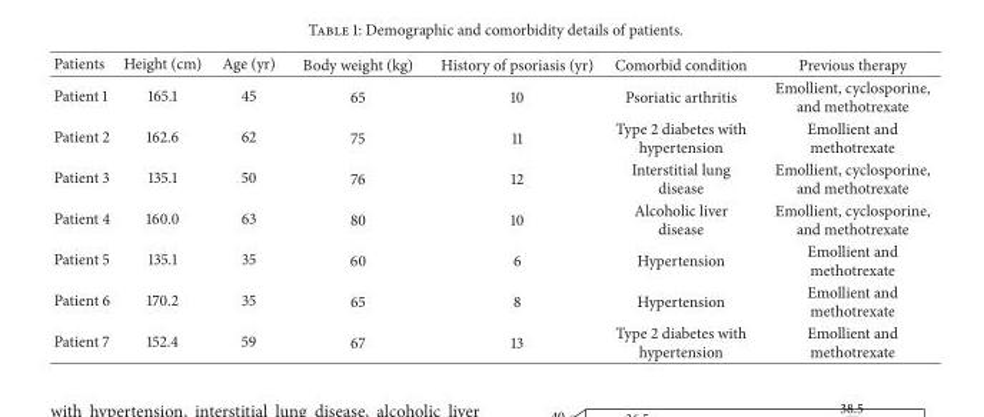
<table><thead><tr><td>Patients</td><td>Height (cm)</td><td>Age (yr)</td><td>Body weight (kg)</td><td>History of psoriasis (yr)</td><td>Comorbid condition</td><td>Previous therapy</td></tr></thead><tbody><tr><td>Patient 1</td><td>165.1</td><td>45</td><td>65</td><td>10</td><td>Psoriatic arthritis</td><td>Emollient, cyclosporine, and methotrexate</td></tr><tr><td>Patient 2</td><td>162.6</td><td>62</td><td>75</td><td>11</td><td>Type 2 diabetes with hypertension</td><td>Emollient and methotrexate</td></tr><tr><td>Patient 3</td><td>135.1</td><td>50</td><td>76</td><td>12</td><td>Interstitial lung disease</td><td>Emollient, cyclosporine, and methotrexate</td></tr><tr><td>Patient 4</td><td>160.0</td><td>63</td><td>80</td><td>10</td><td>Alcoholic liver disease</td><td>Emollient, cyclosporine, and methotrexate</td></tr><tr><td>Patient 5</td><td>135.1</td><td>35</td><td>60</td><td>6</td><td>Hypertension</td><td>Emollient and methotrexate</td></tr><tr><td>Patient 6</td><td>170.2</td><td>35</td><td>65</td><td>8</td><td>Hypertension</td><td>Emollient and methotrexate</td></tr><tr><td>Patient 7</td><td>152.4</td><td>59</td><td>67</td><td>13</td><td>Type 2 diabetes with hypertension</td><td>Emollient and methotrexate</td></tr></tbody></table>